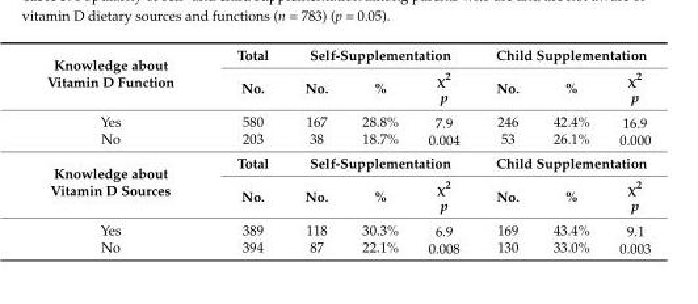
<table><tbody><tr><td rowspan="2">Knowledge about Vitamin D Function</td><td>Total</td><td colspan="3">Self-Supplementation</td><td colspan="3">Child Supplementation</td></tr><tr><td>No.</td><td>No.</td><td>%</td><td>χ<sup>2</sup> p</td><td>No.</td><td>%</td><td>χ<sup>2</sup> p</td></tr><tr><td>Yes</td><td>580</td><td>167</td><td>28.8%</td><td rowspan="2">7.9 0.004</td><td>246</td><td>42.4%</td><td rowspan="2">16.9 0.000</td></tr><tr><td>No</td><td>203</td><td>38</td><td>18.7%</td><td>53</td><td>26.1%</td></tr><tr><td rowspan="2">Knowledge about Vitamin D Sources</td><td>Total</td><td colspan="3">Self-Supplementation</td><td colspan="3">Child Supplementation</td></tr><tr><td>No.</td><td>No.</td><td>%</td><td>χ<sup>2</sup> p</td><td>No.</td><td>%</td><td>χ<sup>2</sup> p</td></tr><tr><td>Yes</td><td>389</td><td>118</td><td>30.3%</td><td rowspan="2">6.9 0.008</td><td>169</td><td>43.4%</td><td rowspan="2">9.1 0.003</td></tr><tr><td>No</td><td>394</td><td>87</td><td>22.1%</td><td>130</td><td>33.0%</td></tr></tbody></table>